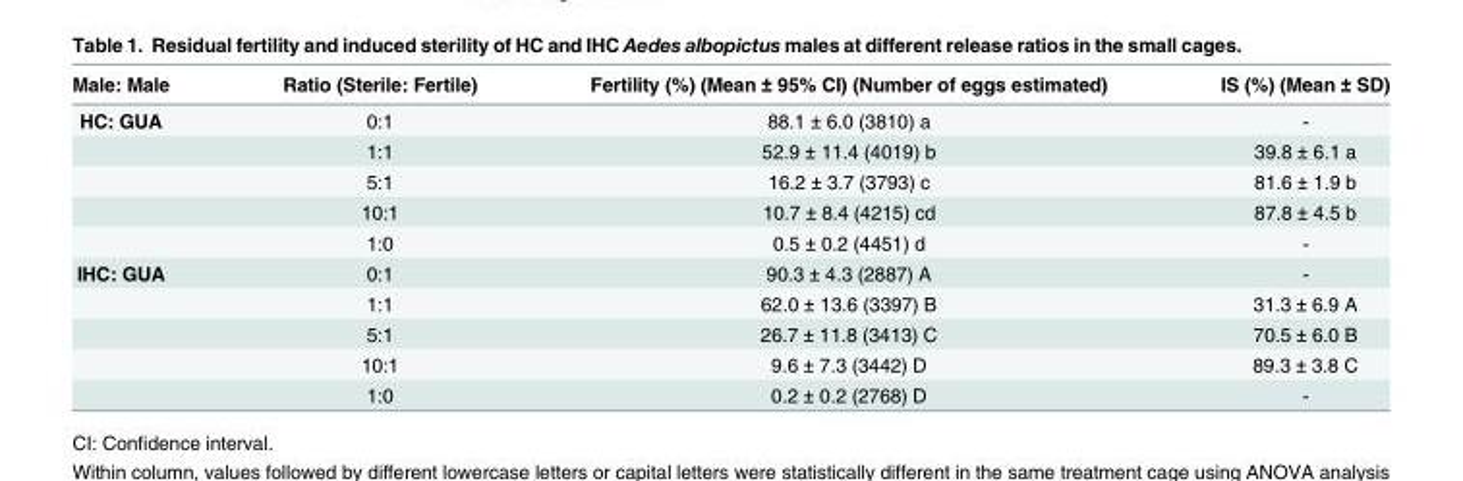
<table><thead><tr><td>Male: Male</td><td>Ratio (Sterile: Fertile)</td><td>Fertility (%) (Mean ± 95% CI) (Number of eggs estimated)</td><td>IS (%) (Mean ± SD)</td></tr></thead><tbody><tr><td rowspan="5">HC: GUA</td><td>0:1</td><td>88.1 ± 6.0 (3810) a</td><td>-</td></tr><tr><td>1:1</td><td>52.9 ± 11.4 (4019) b</td><td>39.8 ± 6.1 a</td></tr><tr><td>5:1</td><td>16.2 ± 3.7 (3793) c</td><td>81.6 ± 1.9 b</td></tr><tr><td>10:1</td><td>10.7 ± 8.4 (4215) cd</td><td>87.8 ± 4.5 b</td></tr><tr><td>1:0</td><td>0.5 ± 0.2 (4451) d</td><td>-</td></tr><tr><td rowspan="5">IHC: GUA</td><td>0:1</td><td>90.3 ± 4.3 (2887) A</td><td>-</td></tr><tr><td>1:1</td><td>62.0 ± 13.6 (3397) B</td><td>31.3 ± 6.9 A</td></tr><tr><td>5:1</td><td>26.7 ± 11.8 (3413) C</td><td>70.5 ± 6.0 B</td></tr><tr><td>10:1</td><td>9.6 ± 7.3 (3442) D</td><td>89.3 ± 3.8 C</td></tr><tr><td>1:0</td><td>0.2 ± 0.2 (2768) D</td><td>-</td></tr></tbody></table>